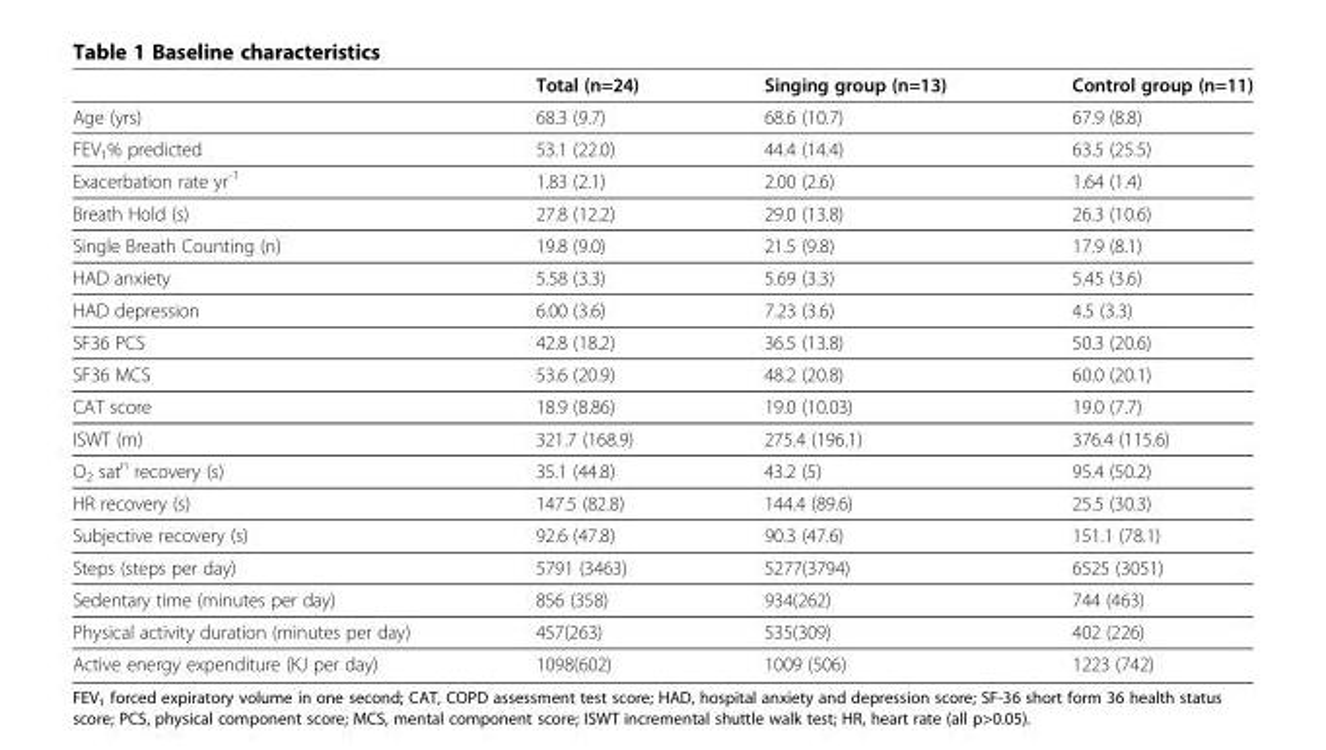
<table><thead><tr><td></td><td>Total (n=24)</td><td>Singing group (n=13)</td><td>Control group (n=11)</td></tr></thead><tbody><tr><td>Age (yrs)</td><td>68.3 (9.7)</td><td>68.6 (10.7)</td><td>67.9 (8.8)</td></tr><tr><td>FEV<sub>1</sub>% predicted</td><td>53.1 (22.0)</td><td>44.4 (14.4)</td><td>63.5 (25.5)</td></tr><tr><td>Exacerbation rate yr<sup>-1</sup></td><td>1.83 (2.1)</td><td>2.00 (2.6)</td><td>1.64 (1.4)</td></tr><tr><td>Breath Hold (s)</td><td>27.8 (12.2)</td><td>29.0 (13.8)</td><td>26.3 (10.6)</td></tr><tr><td>Single Breath Counting (n)</td><td>19.8 (9.0)</td><td>21.5 (9.8)</td><td>17.9 (8.1)</td></tr><tr><td>HAD anxiety</td><td>5.58 (3.3)</td><td>5.69 (3.3)</td><td>5.45 (3.6)</td></tr><tr><td>HAD depression</td><td>6.00 (3.6)</td><td>7.23 (3.6)</td><td>4.5 (3.3)</td></tr><tr><td>SF36 PCS</td><td>42.8 (18.2)</td><td>36.5 (13.8)</td><td>50.3 (20.6)</td></tr><tr><td>SF36 MCS</td><td>53.6 (20.9)</td><td>48.2 (20.8)</td><td>60.0 (20.1)</td></tr><tr><td>CAT score</td><td>18.9 (8.86)</td><td>19.0 (10.03)</td><td>19.0 (7.7)</td></tr><tr><td>ISWT (m)</td><td>321.7 (168.9)</td><td>275.4 (196.1)</td><td>376.4 (115.6)</td></tr><tr><td>O<sub>2</sub> sat<sup>n</sup> recovery (s)</td><td>35.1 (44.8)</td><td>43.2 (5)</td><td>95.4 (50.2)</td></tr><tr><td>HR recovery (s)</td><td>147.5 (82.8)</td><td>144.4 (89.6)</td><td>25.5 (30.3)</td></tr><tr><td>Subjective recovery (s)</td><td>92.6 (47.8)</td><td>90.3 (47.6)</td><td>151.1 (78.1)</td></tr><tr><td>Steps (steps per day)</td><td>5791 (3463)</td><td>5277(3794)</td><td>6525 (3051)</td></tr><tr><td>Sedentary time (minutes per day)</td><td>856 (358)</td><td>934(262)</td><td>744 (463)</td></tr><tr><td>Physical activity duration (minutes per day)</td><td>457(263)</td><td>535(309)</td><td>402 (226)</td></tr><tr><td>Active energy expenditure (KJ per day)</td><td>1098(602)</td><td>1009 (506)</td><td>1223 (742)</td></tr></tbody></table>